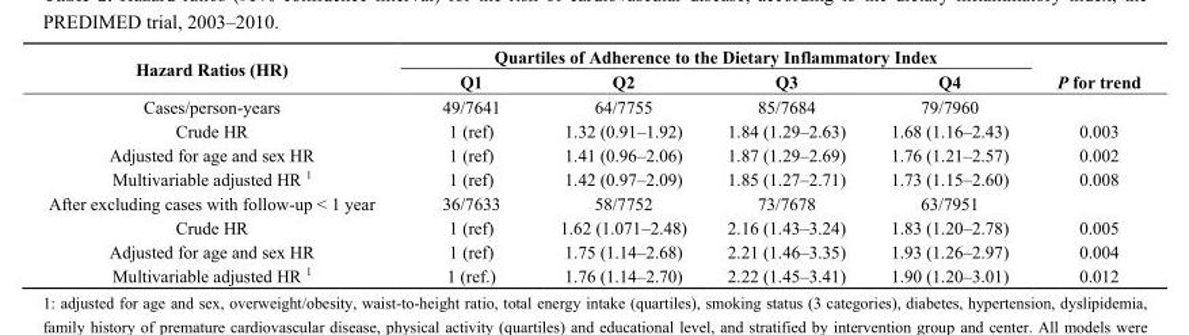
<table><thead><tr><td rowspan="2">Hazard Ratios (HR)</td><td colspan="4">Quartiles of Adherence to the Dietary Inflammatory Index</td><td rowspan="2">P for trend</td></tr><tr><td>Q1</td><td>Q2</td><td>Q3</td><td>Q4</td></tr></thead><tbody><tr><td>Cases/person-years</td><td>49/7641</td><td>64/7755</td><td>85/7684</td><td>79/7960</td><td></td></tr><tr><td>Crude HR</td><td>1 (ref)</td><td>1.32 (0.91–1.92)</td><td>1.84 (1.29–2.63)</td><td>1.68 (1.16–2.43)</td><td>0.003</td></tr><tr><td>Adjusted for age and sex HR</td><td>1 (ref)</td><td>1.41 (0.96–2.06)</td><td>1.87 (1.29–2.69)</td><td>1.76 (1.21–2.57)</td><td>0.002</td></tr><tr><td>Multivariable adjusted HR <sup>1</sup></td><td>1 (ref)</td><td>1.42 (0.97–2.09)</td><td>1.85 (1.27–2.71)</td><td>1.73 (1.15–2.60)</td><td>0.008</td></tr><tr><td>After excluding cases with follow-up &lt; 1 year</td><td>36/7633</td><td>58/7752</td><td>73/7678</td><td>63/7951</td><td></td></tr><tr><td>Crude HR</td><td>1 (ref)</td><td>1.62 (1.071–2.48)</td><td>2.16 (1.43–3.24)</td><td>1.83 (1.20–2.78)</td><td>0.005</td></tr><tr><td>Adjusted for age and sex HR</td><td>1 (ref)</td><td>1.75 (1.14–2.68)</td><td>2.21 (1.46–3.35)</td><td>1.93 (1.26–2.97)</td><td>0.004</td></tr><tr><td>Multivariable adjusted HR <sup>1</sup></td><td>1 (ref.)</td><td>1.76 (1.14–2.70)</td><td>2.22 (1.45–3.41)</td><td>1.90 (1.20–3.01)</td><td>0.012</td></tr></tbody></table>